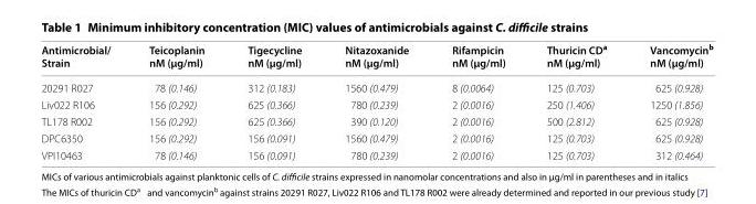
<table><thead><tr><td>Antimicrobial/ Strain</td><td>Teicoplanin nM (μg/ml)</td><td>Tigecycline nM (μg/ml)</td><td>Nitazoxanide nM (μg/ml)</td><td>Rifampicin nM (μg/ml)</td><td>Thuricin CD<sup>a</sup> nM (μg/ml)</td><td>Vancomycin<sup>b</sup> nM (μg/ml)</td></tr></thead><tbody><tr><td>20291 R027</td><td>78 (0.146)</td><td>312 (0.183)</td><td>1560 (0.479)</td><td>8 (0.0064)</td><td>125 (0.703)</td><td>625 (0.928)</td></tr><tr><td>Liv022 R106</td><td>156 (0.292)</td><td>625 (0.366)</td><td>780 (0.239)</td><td>2 (0.0016)</td><td>250 (1.406)</td><td>1250 (1.856)</td></tr><tr><td>TL178 R002</td><td>156 (0.292)</td><td>625 (0.366)</td><td>390 (0.120)</td><td>2 (0.0016)</td><td>500 (2.812)</td><td>625 (0.928)</td></tr><tr><td>DPC6350</td><td>156 (0.292)</td><td>156 (0.091)</td><td>1560 (0.479)</td><td>2 (0.0016)</td><td>125 (0.703)</td><td>625 (0.928)</td></tr><tr><td>VPI10463</td><td>78 (0.146)</td><td>156 (0.091)</td><td>780 (0.239)</td><td>2 (0.0016)</td><td>125 (0.703)</td><td>312 (0.464)</td></tr></tbody></table>